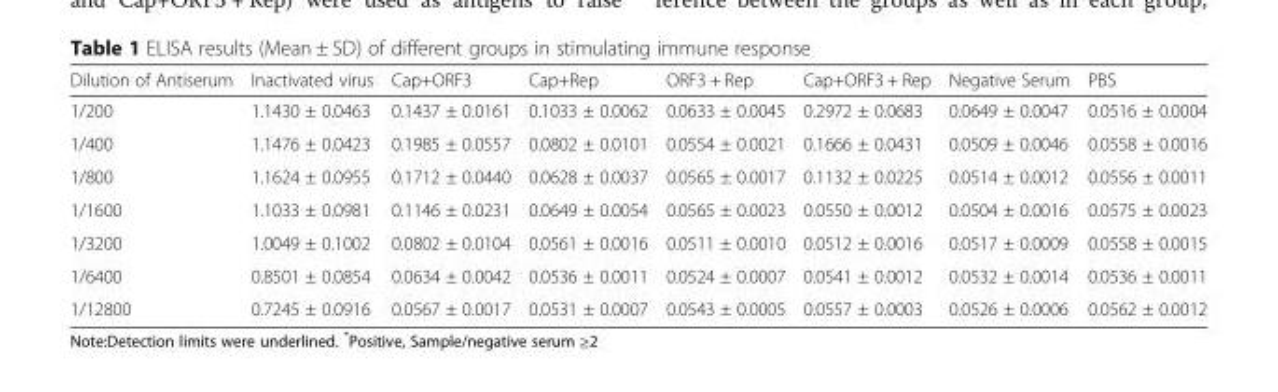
<table><thead><tr><td>Dilution of Antiserum</td><td>Inactivated virus</td><td>Cap+ORF3</td><td>Cap+Rep</td><td>ORF3 + Rep</td><td>Cap+ORF3 + Rep</td><td>Negative Serum</td><td>PBS</td></tr></thead><tbody><tr><td>1/200</td><td>1.1430 ± 0.0463</td><td>0.1437 ± 0.0161</td><td>0.1033 ± 0.0062</td><td>0.0633 ± 0.0045</td><td>0.2972 ± 0.0683</td><td>0.0649 ± 0.0047</td><td>0.0516 ± 0.0004</td></tr><tr><td>1/400</td><td>1.1476 ± 0.0423</td><td>0.1985 ± 0.0557</td><td>0.0802 ± 0.0101</td><td>0.0554 ± 0.0021</td><td>0.1666 ± 0.0431</td><td>0.0509 ± 0.0046</td><td>0.0558 ± 0.0016</td></tr><tr><td>1/800</td><td>1.1624 ± 0.0955</td><td>0.1712 ± 0.0440</td><td>0.0628 ± 0.0037</td><td>0.0565 ± 0.0017</td><td>0.1132 ± 0.0225</td><td>0.0514 ± 0.0012</td><td>0.0556 ± 0.0011</td></tr><tr><td>1/1600</td><td>1.1033 ± 0.0981</td><td>0.1146 ± 0.0231</td><td>0.0649 ± 0.0054</td><td>0.0565 ± 0.0023</td><td>0.0550 ± 0.0012</td><td>0.0504 ± 0.0016</td><td>0.0575 ± 0.0023</td></tr><tr><td>1/3200</td><td>1.0049 ± 0.1002</td><td>0.0802 ± 0.0104</td><td>0.0561 ± 0.0016</td><td>0.0511 ± 0.0010</td><td>0.0512 ± 0.0016</td><td>0.0517 ± 0.0009</td><td>0.0558 ± 0.0015</td></tr><tr><td>1/6400</td><td>0.8501 ± 0.0854</td><td>0.0634 ± 0.0042</td><td>0.0536 ± 0.0011</td><td>0.0524 ± 0.0007</td><td>0.0541 ± 0.0012</td><td>0.0532 ± 0.0014</td><td>0.0536 ± 0.0011</td></tr><tr><td>1/12800</td><td>0.7245 ± 0.0916</td><td>0.0567 ± 0.0017</td><td>0.0531 ± 0.0007</td><td>0.0543 ± 0.0005</td><td>0.0557 ± 0.0003</td><td>0.0526 ± 0.0006</td><td>0.0562 ± 0.0012</td></tr></tbody></table>